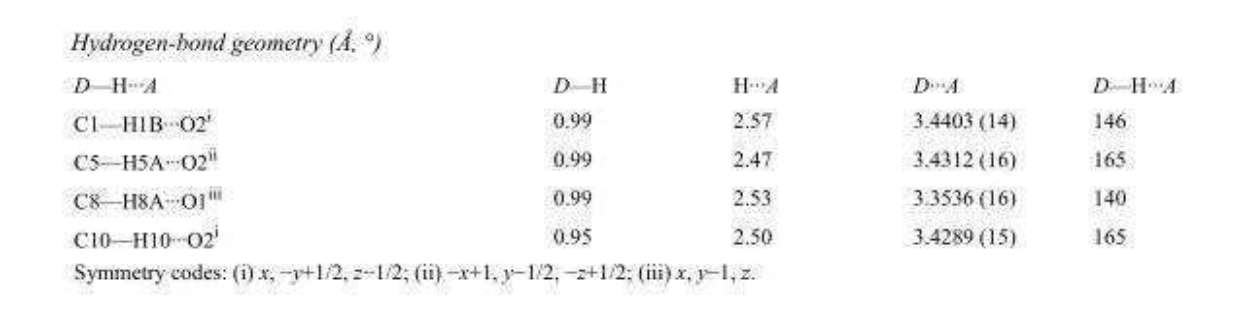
<table><tbody><tr><td>D—H···A</td><td>D—H</td><td>H···A</td><td>D···A</td><td>D—H···A</td></tr><tr><td>C1—H1B···O2<sup>i</sup></td><td>0.99</td><td>2.57</td><td>3.4403 (14)</td><td>146</td></tr><tr><td>C5—H5A···O2<sup>ii</sup></td><td>0.99</td><td>2.47</td><td>3.4312 (16)</td><td>165</td></tr><tr><td>C8—H8A···O1<sup>iii</sup></td><td>0.99</td><td>2.53</td><td>3.3536 (16)</td><td>140</td></tr><tr><td>C10—H10···O2<sup>i</sup></td><td>0.95</td><td>2.50</td><td>3.4289 (15)</td><td>165</td></tr></tbody></table>